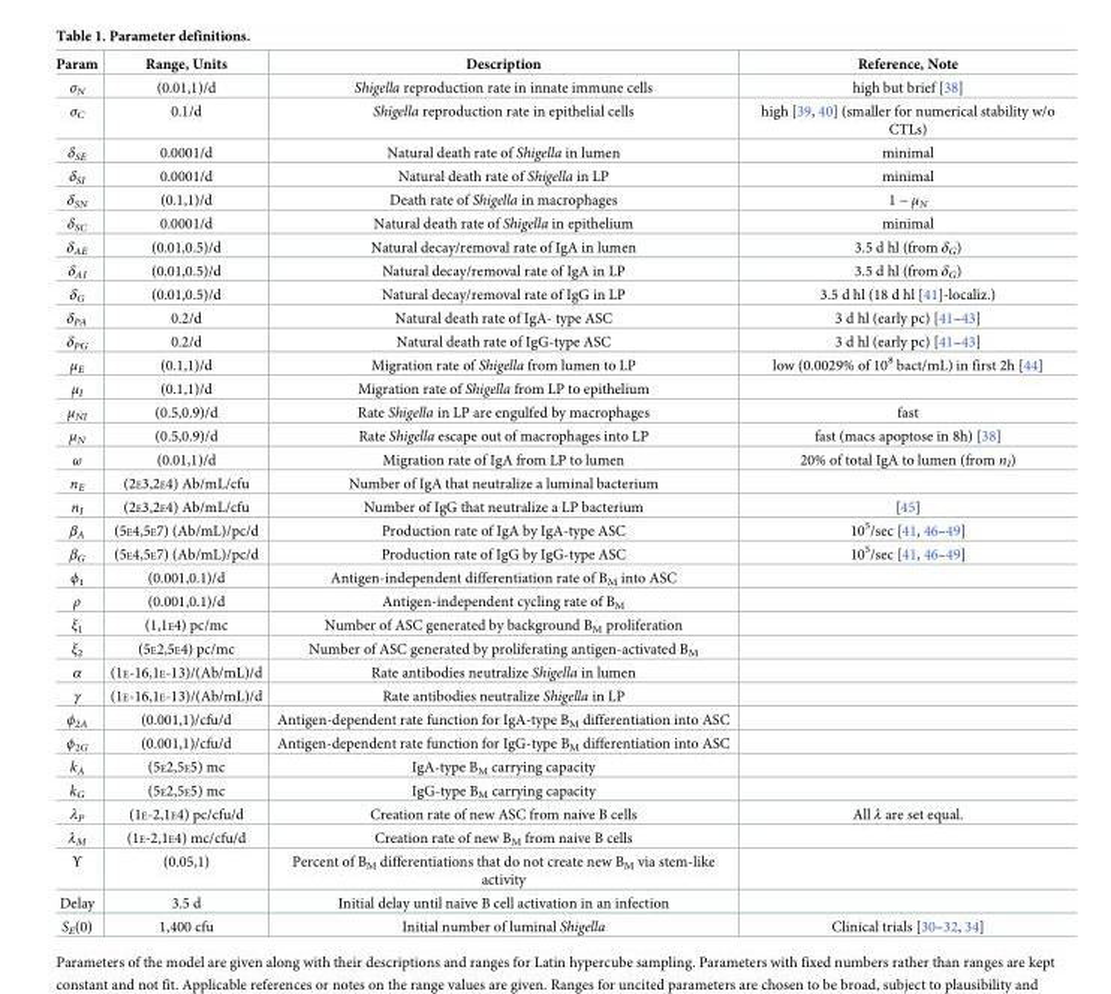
<table><thead><tr><td>Param</td><td>Range, Units</td><td>Description</td><td>Reference, Note</td></tr></thead><tbody><tr><td>σ<sub>N</sub></td><td>(0.01,1)/d</td><td>Shigella reproduction rate in innate immune cells</td><td>high but brief [38]</td></tr><tr><td>σ<sub>C</sub></td><td>0.1/d</td><td>Shigella reproduction rate in epithelial cells</td><td>high [39, 40] (smaller for numerical stability w/o CTLs)</td></tr><tr><td>δ<sub>SE</sub></td><td>0.0001/d</td><td>Natural death rate of Shigella in lumen</td><td>minimal</td></tr><tr><td>δ<sub>SI</sub></td><td>0.0001/d</td><td>Natural death rate of Shigella in LP</td><td>minimal</td></tr><tr><td>δ<sub>SN</sub></td><td>(0.1,1)/d</td><td>Death rate of Shigella in macrophages</td><td>1 − μ<sub>N</sub></td></tr><tr><td>δ<sub>SC</sub></td><td>0.0001/d</td><td>Natural death rate of Shigella in epithelium</td><td>minimal</td></tr><tr><td>δ<sub>AE</sub></td><td>(0.01,0.5)/d</td><td>Natural decay/removal rate of IgA in lumen</td><td>3.5 d hl (from δ<sub>G</sub>)</td></tr><tr><td>δ<sub>AI</sub></td><td>(0.01,0.5)/d</td><td>Natural decay/removal rate of IgA in LP</td><td>3.5 d hl (from δ<sub>G</sub>)</td></tr><tr><td>δ<sub>G</sub></td><td>(0.01,0.5)/d</td><td>Natural decay/removal rate of IgG in LP</td><td>3.5 d hl (18 d hl [41]-localiz.)</td></tr><tr><td>δ<sub>PA</sub></td><td>0.2/d</td><td>Natural death rate of IgA- type ASC</td><td>3 d hl (early pc) [41–43]</td></tr><tr><td>δ<sub>PG</sub></td><td>0.2/d</td><td>Natural death rate of IgG-type ASC</td><td>3 d hl (early pc) [41–43]</td></tr><tr><td>μ<sub>E</sub></td><td>(0.1,1)/d</td><td>Migration rate of Shigella from lumen to LP</td><td>low (0.0029% of 10<sup>8</sup> bact/mL) in first 2h [44]</td></tr><tr><td>μ<sub>I</sub></td><td>(0.1,1)/d</td><td>Migration rate of Shigella from LP to epithelium</td><td></td></tr><tr><td>μ<sub>NI</sub></td><td>(0.5,0.9)/d</td><td>Rate Shigella in LP are engulfed by macrophages</td><td>fast</td></tr><tr><td>μ<sub>N</sub></td><td>(0.5,0.9)/d</td><td>Rate Shigella escape out of macrophages into LP</td><td>fast (macs apoptose in 8h) [38]</td></tr><tr><td>ω</td><td>(0.01,1)/d</td><td>Migration rate of IgA from LP to lumen</td><td>20% of total IgA to lumen (from n<sub>I</sub>)</td></tr><tr><td>n<sub>E</sub></td><td>(2E3,2E4) Ab/mL/cfu</td><td>Number of IgA that neutralize a luminal bacterium</td><td></td></tr><tr><td>n<sub>I</sub></td><td>(2E3,2E4) Ab/mL/cfu</td><td>Number of IgG that neutralize a LP bacterium</td><td>[45]</td></tr><tr><td>β<sub>A</sub></td><td>(5E4,5E7) (Ab/mL)/pc/d</td><td>Production rate of IgA by IgA-type ASC</td><td>10<sup>5</sup>/sec [41, 46–49]</td></tr><tr><td>β<sub>G</sub></td><td>(5E4,5E7) (Ab/mL)/pc/d</td><td>Production rate of IgG by IgG-type ASC</td><td>10<sup>5</sup>/sec [41, 46–49]</td></tr><tr><td>ϕ<sub>1</sub></td><td>(0.001,0.1)/d</td><td>Antigen-independent differentiation rate of B<sub>M</sub> into ASC</td><td></td></tr><tr><td>ρ</td><td>(0.001,0.1)/d</td><td>Antigen-independent cycling rate of B<sub>M</sub></td><td></td></tr><tr><td>ξ<sub>1</sub></td><td>(1,1E4) pc/mc</td><td>Number of ASC generated by background B<sub>M</sub> proliferation</td><td></td></tr><tr><td>ξ<sub>2</sub></td><td>(5E2,5E4) pc/mc</td><td>Number of ASC generated by proliferating antigen-activated B<sub>M</sub></td><td></td></tr><tr><td>α</td><td>(1E-16,1E-13)/(Ab/mL)/d</td><td>Rate antibodies neutralize Shigella in lumen</td><td></td></tr><tr><td>γ</td><td>(1E-16,1E-13)/(Ab/mL)/d</td><td>Rate antibodies neutralize Shigella in LP</td><td></td></tr><tr><td>ϕ<sub>2A</sub></td><td>(0.001,1)/cfu/d</td><td>Antigen-dependent rate function for IgA-type B<sub>M</sub> differentiation into ASC</td><td></td></tr><tr><td>ϕ<sub>2G</sub></td><td>(0.001,1)/cfu/d</td><td>Antigen-dependent rate function for IgG-type B<sub>M</sub> differentiation into ASC</td><td></td></tr><tr><td>k<sub>A</sub></td><td>(5E2,5E5) mc</td><td>IgA-type B<sub>M</sub> carrying capacity</td><td></td></tr><tr><td>k<sub>G</sub></td><td>(5E2,5E5) mc</td><td>IgG-type B<sub>M</sub> carrying capacity</td><td></td></tr><tr><td>λ<sub>P</sub></td><td>(1E-2,1E4) pc/cfu/d</td><td>Creation rate of new ASC from naive B cells</td><td>All λ are set equal.</td></tr><tr><td>λ<sub>M</sub></td><td>(1E-2,1E4) mc/cfu/d</td><td>Creation rate of new B<sub>M</sub> from naive B cells</td><td></td></tr><tr><td>Υ</td><td>(0.05,1)</td><td>Percent of B<sub>M</sub> differentiations that do not create new B<sub>M</sub> via stem-like activity</td><td></td></tr><tr><td>Delay</td><td>3.5 d</td><td>Initial delay until naive B cell activation in an infection</td><td></td></tr><tr><td>S<sub>E</sub>(0)</td><td>1,400 cfu</td><td>Initial number of luminal Shigella</td><td>Clinical trials [30–32, 34]</td></tr></tbody></table>